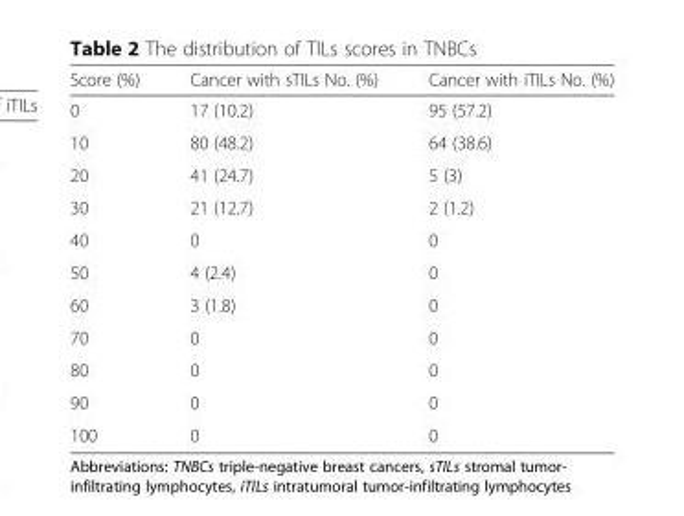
<table><thead><tr><td>Score (%)</td><td>Cancer with sTILs No. (%)</td><td>Cancer with iTILs No. (%)</td></tr></thead><tbody><tr><td>0</td><td>17 (10.2)</td><td>95 (57.2)</td></tr><tr><td>10</td><td>80 (48.2)</td><td>64 (38.6)</td></tr><tr><td>20</td><td>41 (24.7)</td><td>5 (3)</td></tr><tr><td>30</td><td>21 (12.7)</td><td>2 (1.2)</td></tr><tr><td>40</td><td>0</td><td>0</td></tr><tr><td>50</td><td>4 (2.4)</td><td>0</td></tr><tr><td>60</td><td>3 (1.8)</td><td>0</td></tr><tr><td>70</td><td>0</td><td>0</td></tr><tr><td>80</td><td>0</td><td>0</td></tr><tr><td>90</td><td>0</td><td>0</td></tr><tr><td>100</td><td>0</td><td>0</td></tr></tbody></table>